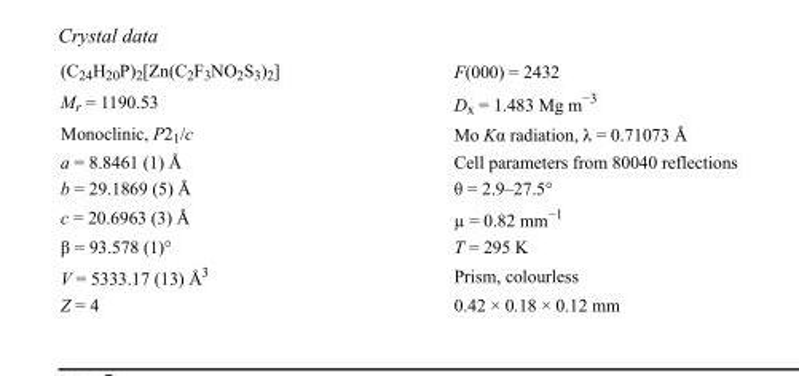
<table><tbody><tr><td>(C<sub>24</sub>H<sub>20</sub>P)<sub>2</sub>[Zn(C<sub>2</sub>F<sub>3</sub>NO<sub>2</sub>S<sub>3</sub>)<sub>2</sub>]</td><td>F(000) = 2432</td></tr><tr><td>M<sub>r</sub> = 1190.53</td><td>D<sub>x</sub> = 1.483 Mg m<sup>−3</sup></td></tr><tr><td>Monoclinic, P2<sub>1</sub>/c</td><td>Mo Kα radiation, λ = 0.71073 Å</td></tr><tr><td>a = 8.8461 (1) Å</td><td>Cell parameters from 80040 reflections</td></tr><tr><td>b = 29.1869 (5) Å</td><td>θ = 2.9–27.5°</td></tr><tr><td>c = 20.6963 (3) Å</td><td>µ = 0.82 mm<sup>−1</sup></td></tr><tr><td>β = 93.578 (1)°</td><td>T = 295 K</td></tr><tr><td>V = 5333.17 (13) Å<sup>3</sup></td><td>Prism, colourless</td></tr><tr><td>Z = 4</td><td>0.42 × 0.18 × 0.12 mm</td></tr></tbody></table>